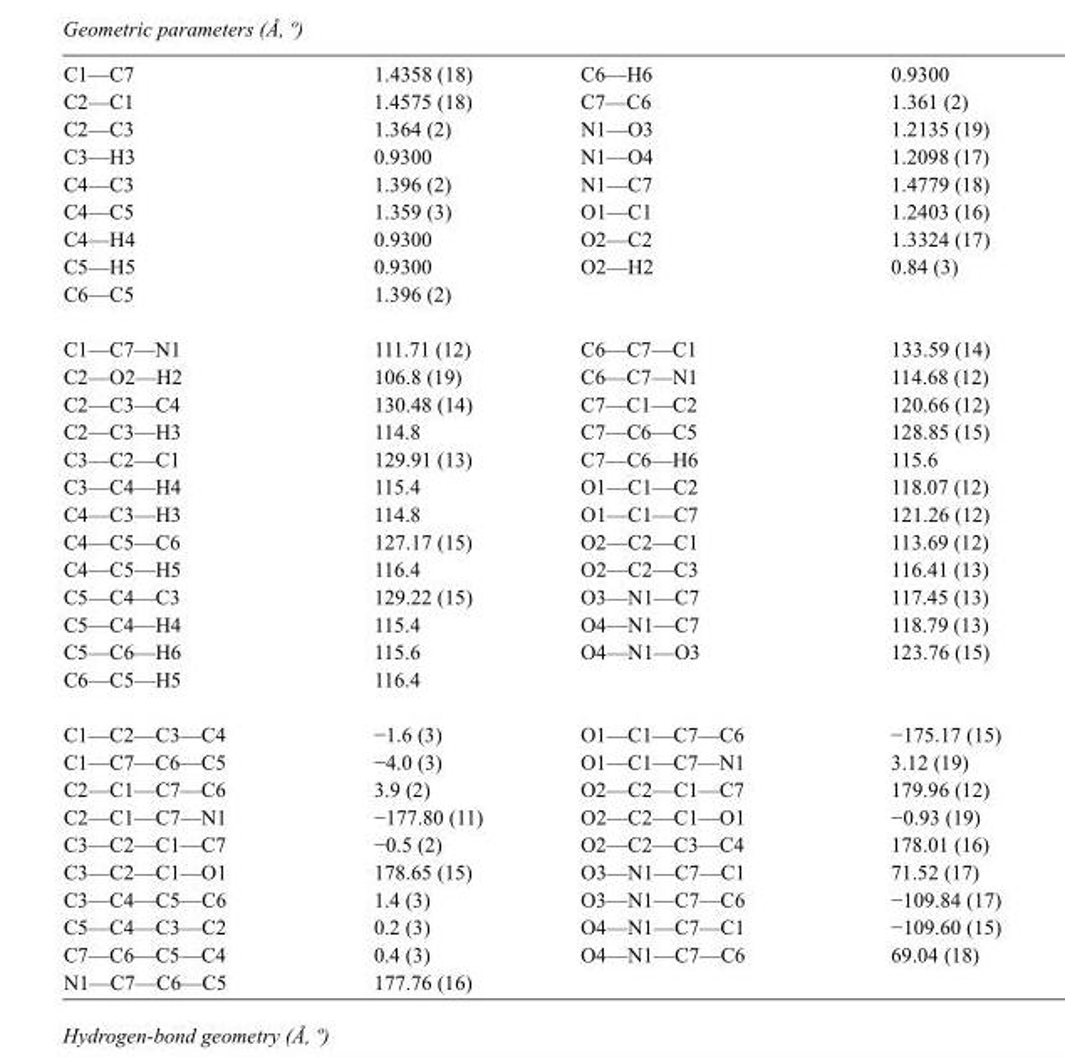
<table><tbody><tr><td>C1—C7</td><td>1.4358 (18)</td><td>C6—H6</td><td>0.9300</td></tr><tr><td>C2—C1</td><td>1.4575 (18)</td><td>C7—C6</td><td>1.361 (2)</td></tr><tr><td>C2—C3</td><td>1.364 (2)</td><td>N1—O3</td><td>1.2135 (19)</td></tr><tr><td>C3—H3</td><td>0.9300</td><td>N1—O4</td><td>1.2098 (17)</td></tr><tr><td>C4—C3</td><td>1.396 (2)</td><td>N1—C7</td><td>1.4779 (18)</td></tr><tr><td>C4—C5</td><td>1.359 (3)</td><td>O1—C1</td><td>1.2403 (16)</td></tr><tr><td>C4—H4</td><td>0.9300</td><td>O2—C2</td><td>1.3324 (17)</td></tr><tr><td>C5—H5</td><td>0.9300</td><td>O2—H2</td><td>0.84 (3)</td></tr><tr><td>C6—C5</td><td>1.396 (2)</td><td></td><td></td></tr><tr><td>C1—C7—N1</td><td>111.71 (12)</td><td>C6—C7—C1</td><td>133.59 (14)</td></tr><tr><td>C2—O2—H2</td><td>106.8 (19)</td><td>C6—C7—N1</td><td>114.68 (12)</td></tr><tr><td>C2—C3—C4</td><td>130.48 (14)</td><td>C7—C1—C2</td><td>120.66 (12)</td></tr><tr><td>C2—C3—H3</td><td>114.8</td><td>C7—C6—C5</td><td>128.85 (15)</td></tr><tr><td>C3—C2—C1</td><td>129.91 (13)</td><td>C7—C6—H6</td><td>115.6</td></tr><tr><td>C3—C4—H4</td><td>115.4</td><td>O1—C1—C2</td><td>118.07 (12)</td></tr><tr><td>C4—C3—H3</td><td>114.8</td><td>O1—C1—C7</td><td>121.26 (12)</td></tr><tr><td>C4—C5—C6</td><td>127.17 (15)</td><td>O2—C2—C1</td><td>113.69 (12)</td></tr><tr><td>C4—C5—H5</td><td>116.4</td><td>O2—C2—C3</td><td>116.41 (13)</td></tr><tr><td>C5—C4—C3</td><td>129.22 (15)</td><td>O3—N1—C7</td><td>117.45 (13)</td></tr><tr><td>C5—C4—H4</td><td>115.4</td><td>O4—N1—C7</td><td>118.79 (13)</td></tr><tr><td>C5—C6—H6</td><td>115.6</td><td>O4—N1—O3</td><td>123.76 (15)</td></tr><tr><td>C6—C5—H5</td><td>116.4</td><td></td><td></td></tr><tr><td>C1—C2—C3—C4</td><td>−1.6 (3)</td><td>O1—C1—C7—C6</td><td>−175.17 (15)</td></tr><tr><td>C1—C7—C6—C5</td><td>−4.0 (3)</td><td>O1—C1—C7—N1</td><td>3.12 (19)</td></tr><tr><td>C2—C1—C7—C6</td><td>3.9 (2)</td><td>O2—C2—C1—C7</td><td>179.96 (12)</td></tr><tr><td>C2—C1—C7—N1</td><td>−177.80 (11)</td><td>O2—C2—C1—O1</td><td>−0.93 (19)</td></tr><tr><td>C3—C2—C1—C7</td><td>−0.5 (2)</td><td>O2—C2—C3—C4</td><td>178.01 (16)</td></tr><tr><td>C3—C2—C1—O1</td><td>178.65 (15)</td><td>O3—N1—C7—C1</td><td>71.52 (17)</td></tr><tr><td>C3—C4—C5—C6</td><td>1.4 (3)</td><td>O3—N1—C7—C6</td><td>−109.84 (17)</td></tr><tr><td>C5—C4—C3—C2</td><td>0.2 (3)</td><td>O4—N1—C7—C1</td><td>−109.60 (15)</td></tr><tr><td>C7—C6—C5—C4</td><td>0.4 (3)</td><td>O4—N1—C7—C6</td><td>69.04 (18)</td></tr><tr><td>N1—C7—C6—C5</td><td>177.76 (16)</td><td></td><td></td></tr></tbody></table>